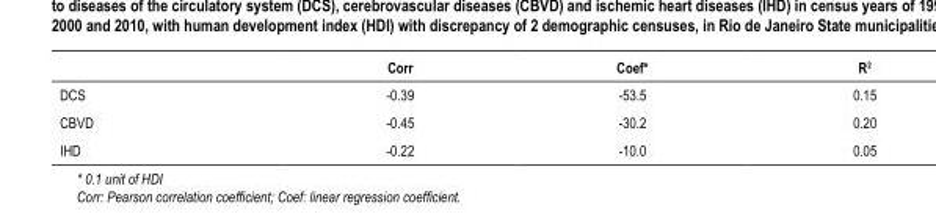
<table><thead><tr><td></td><td>Corr</td><td>Coef*</td><td>R<sup>2</sup></td></tr></thead><tbody><tr><td>DCS</td><td>-0.39</td><td>-53.5</td><td>0.15</td></tr><tr><td>CBVD</td><td>-0.45</td><td>-30.2</td><td>0.20</td></tr><tr><td>IHD</td><td>-0.22</td><td>-10.0</td><td>0.05</td></tr></tbody></table>